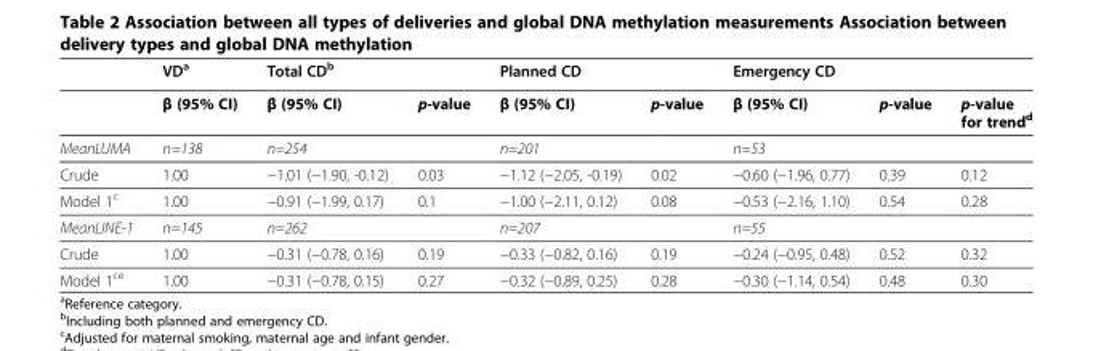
<table><thead><tr><td rowspan="2"></td><td rowspan="2">VD<sup>a</sup> β (95% CI)</td><td colspan="2">Total CD<sup>b</sup></td><td colspan="2">Planned CD</td><td colspan="2">Emergency CD</td><td rowspan="2">p-value for trend<sup>d</sup></td></tr><tr><td>β (95% CI)</td><td>p-value</td><td>β (95% CI)</td><td>p-value</td><td>β (95% CI)</td><td>p-value</td></tr></thead><tbody><tr><td>MeanLUMA</td><td>n=138</td><td colspan="2">n=254</td><td colspan="2">n=201</td><td colspan="2">n=53</td><td></td></tr><tr><td>Crude</td><td>1.00</td><td>−1.01 (−1.90, -0.12)</td><td>0.03</td><td>−1.12 (−2.05, -0.19)</td><td>0.02</td><td>−0.60 (−1.96, 0.77)</td><td>0.39</td><td>0.12</td></tr><tr><td>Model 1<sup>c</sup></td><td>1.00</td><td>−0.91 (−1.99, 0.17)</td><td>0.1</td><td>−1.00 (−2.11, 0.12)</td><td>0.08</td><td>−0.53 (−2.16, 1.10)</td><td>0.54</td><td>0.28</td></tr><tr><td>MeanLINE-1</td><td>n=145</td><td colspan="2">n=262</td><td colspan="2">n=207</td><td colspan="2">n=55</td><td></td></tr><tr><td>Crude</td><td>1.00</td><td>−0.31 (−0.78, 0.16)</td><td>0.19</td><td>−0.33 (−0.82, 0.16)</td><td>0.19</td><td>−0.24 (−0.95, 0.48)</td><td>0.52</td><td>0.32</td></tr><tr><td>Model 1<sup>ce</sup></td><td>1.00</td><td>−0.31 (−0.78, 0.15)</td><td>0.27</td><td>−0.32 (−0.89, 0.25)</td><td>0.28</td><td>−0.30 (−1.14, 0.54)</td><td>0.48</td><td>0.30</td></tr></tbody></table>